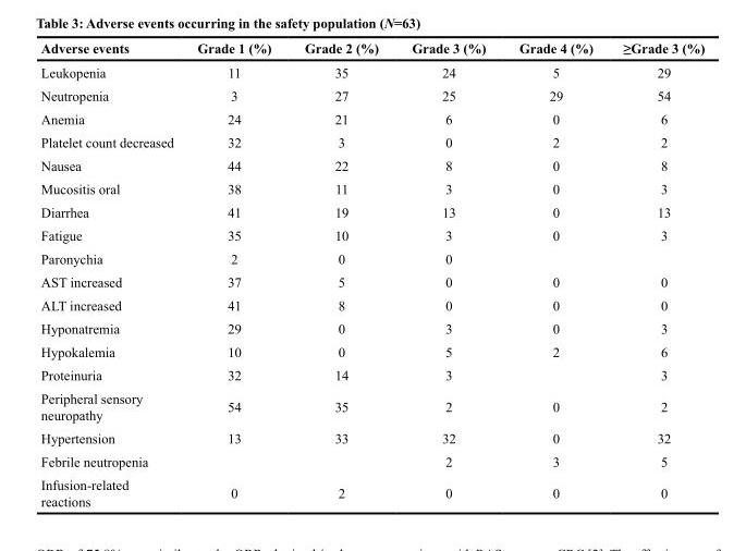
<table><thead><tr><td>Adverse events</td><td>Grade 1 (%)</td><td>Grade 2 (%)</td><td>Grade 3 (%)</td><td>Grade 4 (%)</td><td>≥Grade 3 (%)</td></tr></thead><tbody><tr><td>Leukopenia</td><td>11</td><td>35</td><td>24</td><td>5</td><td>29</td></tr><tr><td>Neutropenia</td><td>3</td><td>27</td><td>25</td><td>29</td><td>54</td></tr><tr><td>Anemia</td><td>24</td><td>21</td><td>6</td><td>0</td><td>6</td></tr><tr><td>Platelet count decreased</td><td>32</td><td>3</td><td>0</td><td>2</td><td>2</td></tr><tr><td>Nausea</td><td>44</td><td>22</td><td>8</td><td>0</td><td>8</td></tr><tr><td>Mucositis oral</td><td>38</td><td>11</td><td>3</td><td>0</td><td>3</td></tr><tr><td>Diarrhea</td><td>41</td><td>19</td><td>13</td><td>0</td><td>13</td></tr><tr><td>Fatigue</td><td>35</td><td>10</td><td>3</td><td>0</td><td>3</td></tr><tr><td>Paronychia</td><td>2</td><td>0</td><td>0</td><td></td><td></td></tr><tr><td>AST increased</td><td>37</td><td>5</td><td>0</td><td>0</td><td>0</td></tr><tr><td>ALT increased</td><td>41</td><td>8</td><td>0</td><td>0</td><td>0</td></tr><tr><td>Hyponatremia</td><td>29</td><td>0</td><td>3</td><td>0</td><td>3</td></tr><tr><td>Hypokalemia</td><td>10</td><td>0</td><td>5</td><td>2</td><td>6</td></tr><tr><td>Proteinuria</td><td>32</td><td>14</td><td>3</td><td></td><td>3</td></tr><tr><td>Peripheral sensory neuropathy</td><td>54</td><td>35</td><td>2</td><td>0</td><td>2</td></tr><tr><td>Hypertension</td><td>13</td><td>33</td><td>32</td><td>0</td><td>32</td></tr><tr><td>Febrile neutropenia</td><td></td><td></td><td>2</td><td>3</td><td>5</td></tr><tr><td>Infusion-related reactions</td><td>0</td><td>2</td><td>0</td><td>0</td><td>0</td></tr></tbody></table>